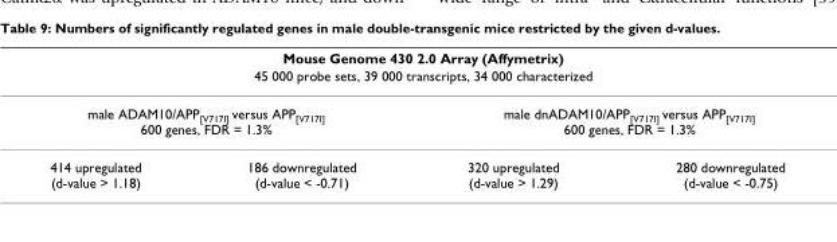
<table><thead><tr><td rowspan="2" colspan="4">Mouse Genome 430 2.0 Array (Affymetrix) 45 000 probe sets, 39 000 transcripts, 34 000 characterized</td></tr><tr></tr><tr><td colspan="2">male ADAM10/APP[V717I] versus APP[V717I] 600 genes, FDR = 1.3%</td><td colspan="2">male dnADAM10/APP[V717I] versus APP[V717I] 600 genes, FDR = 1.3%</td></tr><tr><td>414 upregulated (d-value &gt; 1.18)</td><td>186 downregulated (d-value &lt; -0.71)</td><td>320 upregulated (d-value &gt; 1.29)</td><td>280 downregulated (d-value &lt; -0.75)</td></tr></thead><tbody></tbody></table>